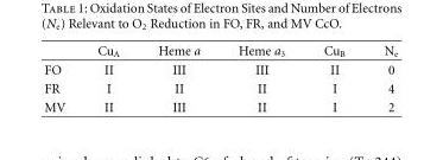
<table><thead><tr><td></td><td>Cu<sub>A</sub></td><td>Heme a</td><td>Heme a<sub>3</sub></td><td>Cu<sub>B</sub></td><td>N<sub>e</sub></td></tr></thead><tbody><tr><td>FO</td><td>II</td><td>III</td><td>III</td><td>II</td><td>0</td></tr><tr><td>FR</td><td>I</td><td>II</td><td>II</td><td>I</td><td>4</td></tr><tr><td>MV</td><td>II</td><td>III</td><td>II</td><td>I</td><td>2</td></tr></tbody></table>